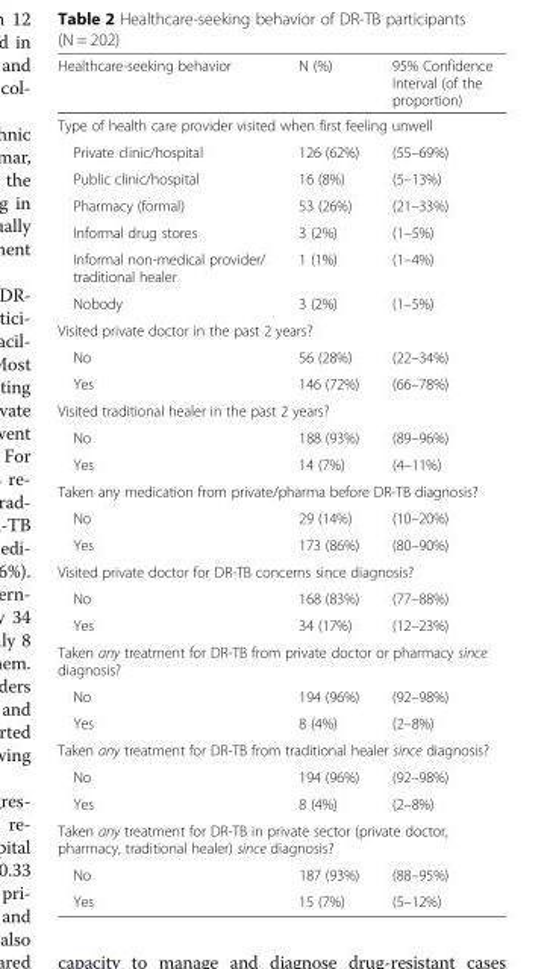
<table><thead><tr><td>Healthcare-seeking behavior</td><td>N (%)</td><td>95% Confidence Interval (of the proportion)</td></tr></thead><tbody><tr><td colspan="3">Type of health care provider visited when first feeling unwell</td></tr><tr><td>Private clinic/hospital</td><td>126 (62%)</td><td>(55–69%)</td></tr><tr><td>Public clinic/hospital</td><td>16 (8%)</td><td>(5–13%)</td></tr><tr><td>Pharmacy (formal)</td><td>53 (26%)</td><td>(21–33%)</td></tr><tr><td>Informal drug stores</td><td>3 (2%)</td><td>(1–5%)</td></tr><tr><td>Informal non-medical provider/ traditional healer</td><td>1 (1%)</td><td>(1–4%)</td></tr><tr><td>Nobody</td><td>3 (2%)</td><td>(1–5%)</td></tr><tr><td colspan="3">Visited private doctor in the past 2 years?</td></tr><tr><td>No</td><td>56 (28%)</td><td>(22–34%)</td></tr><tr><td>Yes</td><td>146 (72%)</td><td>(66–78%)</td></tr><tr><td colspan="3">Visited traditional healer in the past 2 years?</td></tr><tr><td>No</td><td>188 (93%)</td><td>(89–96%)</td></tr><tr><td>Yes</td><td>14 (7%)</td><td>(4–11%)</td></tr><tr><td colspan="3">Taken any medication from private/pharma before DR-TB diagnosis?</td></tr><tr><td>No</td><td>29 (14%)</td><td>(10–20%)</td></tr><tr><td>Yes</td><td>173 (86%)</td><td>(80–90%)</td></tr><tr><td colspan="3">Visited private doctor for DR-TB concerns since diagnosis?</td></tr><tr><td>No</td><td>168 (83%)</td><td>(77–88%)</td></tr><tr><td>Yes</td><td>34 (17%)</td><td>(12–23%)</td></tr><tr><td colspan="3">Taken any treatment for DR-TB from private doctor or pharmacy since diagnosis?</td></tr><tr><td>No</td><td>194 (96%)</td><td>(92–98%)</td></tr><tr><td>Yes</td><td>8 (4%)</td><td>(2–8%)</td></tr><tr><td colspan="3">Taken any treatment for DR-TB from traditional healer since diagnosis?</td></tr><tr><td>No</td><td>194 (96%)</td><td>(92–98%)</td></tr><tr><td>Yes</td><td>8 (4%)</td><td>(2–8%)</td></tr><tr><td colspan="3">Taken any treatment for DR-TB in private sector (private doctor, pharmacy, traditional healer) since diagnosis?</td></tr><tr><td>No</td><td>187 (93%)</td><td>(88–95%)</td></tr><tr><td>Yes</td><td>15 (7%)</td><td>(5–12%)</td></tr></tbody></table>